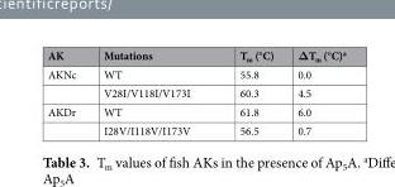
<table><thead><tr><td>AK</td><td>Mutations</td><td>T<sub>m</sub> (°C)</td><td>ΔT<sub>m</sub> (°C)<sup>a</sup></td></tr></thead><tbody><tr><td rowspan="2">AKNc</td><td>WT</td><td>55.8</td><td>0.0</td></tr><tr><td>V28I/V118I/V173I</td><td>60.3</td><td>4.5</td></tr><tr><td rowspan="2">AKDr</td><td>WT</td><td>61.8</td><td>6.0</td></tr><tr><td>I28V/I118V/I173V</td><td>56.5</td><td>0.7</td></tr></tbody></table>